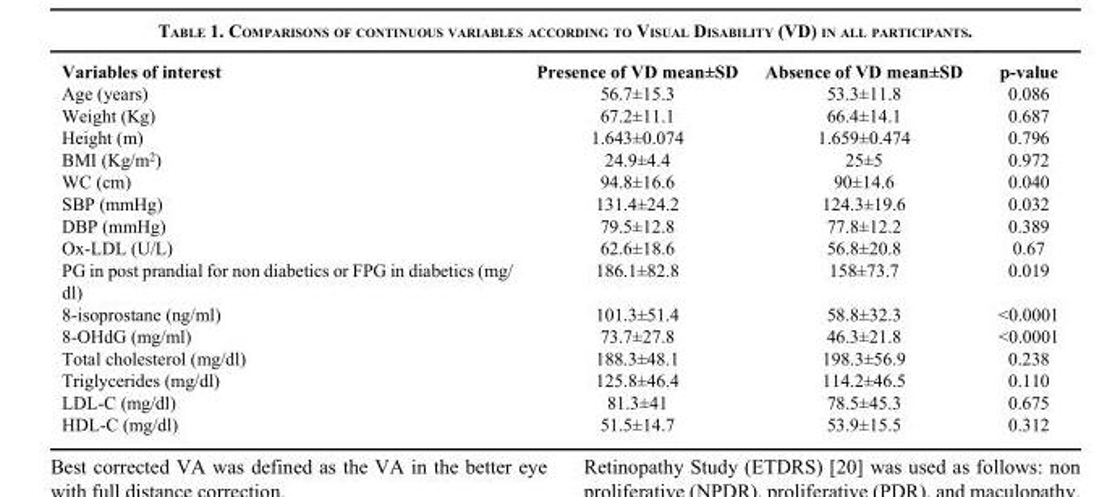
<table><thead><tr><td>Variables of interest</td><td>Presence of VD mean±SD</td><td>Absence of VD mean±SD</td><td>p-value</td></tr></thead><tbody><tr><td>Age (years)</td><td>56.7±15.3</td><td>53.3±11.8</td><td>0.086</td></tr><tr><td>Weight (Kg)</td><td>67.2±11.1</td><td>66.4±14.1</td><td>0.687</td></tr><tr><td>Height (m)</td><td>1.643±0.074</td><td>1.659±0.474</td><td>0.796</td></tr><tr><td>BMI (Kg/m<sup>2</sup>)</td><td>24.9±4.4</td><td>25±5</td><td>0.972</td></tr><tr><td>WC (cm)</td><td>94.8±16.6</td><td>90±14.6</td><td>0.040</td></tr><tr><td>SBP (mmHg)</td><td>131.4±24.2</td><td>124.3±19.6</td><td>0.032</td></tr><tr><td>DBP (mmHg)</td><td>79.5±12.8</td><td>77.8±12.2</td><td>0.389</td></tr><tr><td>Ox-LDL (U/L)</td><td>62.6±18.6</td><td>56.8±20.8</td><td>0.67</td></tr><tr><td>PG in post prandial for non diabetics or FPG in diabetics (mg/ dl)</td><td>186.1±82.8</td><td>158±73.7</td><td>0.019</td></tr><tr><td>8-isoprostane (ng/ml)</td><td>101.3±51.4</td><td>58.8±32.3</td><td>&lt;0.0001</td></tr><tr><td>8-OHdG (mg/ml)</td><td>73.7±27.8</td><td>46.3±21.8</td><td>&lt;0.0001</td></tr><tr><td>Total cholesterol (mg/dl)</td><td>188.3±48.1</td><td>198.3±56.9</td><td>0.238</td></tr><tr><td>Triglycerides (mg/dl)</td><td>125.8±46.4</td><td>114.2±46.5</td><td>0.110</td></tr><tr><td>LDL-C (mg/dl)</td><td>81.3±41</td><td>78.5±45.3</td><td>0.675</td></tr><tr><td>HDL-C (mg/dl)</td><td>51.5±14.7</td><td>53.9±15.5</td><td>0.312</td></tr></tbody></table>